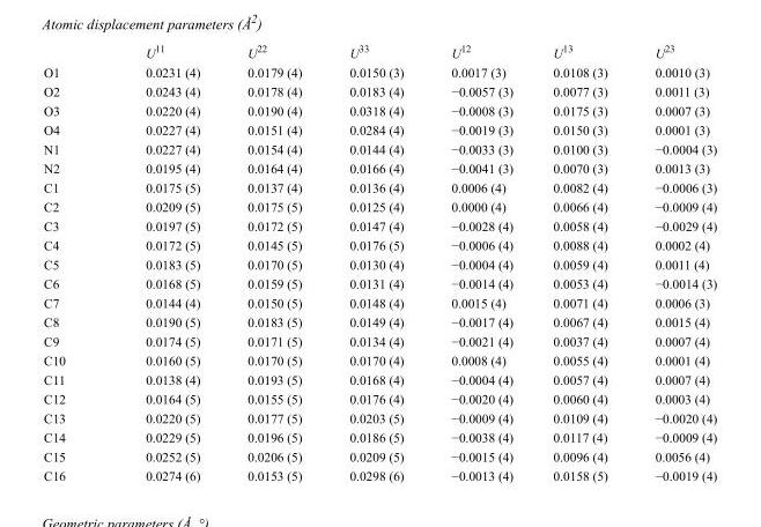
<table><thead><tr><td></td><td>U<sup>11</sup></td><td>U<sup>22</sup></td><td>U<sup>33</sup></td><td>U<sup>12</sup></td><td>U<sup>13</sup></td><td>U<sup>23</sup></td></tr></thead><tbody><tr><td>O1</td><td>0.0231 (4)</td><td>0.0179 (4)</td><td>0.0150 (3)</td><td>0.0017 (3)</td><td>0.0108 (3)</td><td>0.0010 (3)</td></tr><tr><td>O2</td><td>0.0243 (4)</td><td>0.0178 (4)</td><td>0.0183 (4)</td><td>−0.0057 (3)</td><td>0.0077 (3)</td><td>0.0011 (3)</td></tr><tr><td>O3</td><td>0.0220 (4)</td><td>0.0190 (4)</td><td>0.0318 (4)</td><td>−0.0008 (3)</td><td>0.0175 (3)</td><td>0.0007 (3)</td></tr><tr><td>O4</td><td>0.0227 (4)</td><td>0.0151 (4)</td><td>0.0284 (4)</td><td>−0.0019 (3)</td><td>0.0150 (3)</td><td>0.0001 (3)</td></tr><tr><td>N1</td><td>0.0227 (4)</td><td>0.0154 (4)</td><td>0.0144 (4)</td><td>−0.0033 (3)</td><td>0.0100 (3)</td><td>−0.0004 (3)</td></tr><tr><td>N2</td><td>0.0195 (4)</td><td>0.0164 (4)</td><td>0.0166 (4)</td><td>−0.0041 (3)</td><td>0.0070 (3)</td><td>0.0013 (3)</td></tr><tr><td>C1</td><td>0.0175 (5)</td><td>0.0137 (4)</td><td>0.0136 (4)</td><td>0.0006 (4)</td><td>0.0082 (4)</td><td>−0.0006 (3)</td></tr><tr><td>C2</td><td>0.0209 (5)</td><td>0.0175 (5)</td><td>0.0125 (4)</td><td>0.0000 (4)</td><td>0.0066 (4)</td><td>−0.0009 (4)</td></tr><tr><td>C3</td><td>0.0197 (5)</td><td>0.0172 (5)</td><td>0.0147 (4)</td><td>−0.0028 (4)</td><td>0.0058 (4)</td><td>−0.0029 (4)</td></tr><tr><td>C4</td><td>0.0172 (5)</td><td>0.0145 (5)</td><td>0.0176 (5)</td><td>−0.0006 (4)</td><td>0.0088 (4)</td><td>0.0002 (4)</td></tr><tr><td>C5</td><td>0.0183 (5)</td><td>0.0170 (5)</td><td>0.0130 (4)</td><td>−0.0004 (4)</td><td>0.0059 (4)</td><td>0.0011 (4)</td></tr><tr><td>C6</td><td>0.0168 (5)</td><td>0.0159 (5)</td><td>0.0131 (4)</td><td>−0.0014 (4)</td><td>0.0053 (4)</td><td>−0.0014 (3)</td></tr><tr><td>C7</td><td>0.0144 (4)</td><td>0.0150 (5)</td><td>0.0148 (4)</td><td>0.0015 (4)</td><td>0.0071 (4)</td><td>0.0006 (3)</td></tr><tr><td>C8</td><td>0.0190 (5)</td><td>0.0183 (5)</td><td>0.0149 (4)</td><td>−0.0017 (4)</td><td>0.0067 (4)</td><td>0.0015 (4)</td></tr><tr><td>C9</td><td>0.0174 (5)</td><td>0.0171 (5)</td><td>0.0134 (4)</td><td>−0.0021 (4)</td><td>0.0037 (4)</td><td>0.0007 (4)</td></tr><tr><td>C10</td><td>0.0160 (5)</td><td>0.0170 (5)</td><td>0.0170 (4)</td><td>0.0008 (4)</td><td>0.0055 (4)</td><td>0.0001 (4)</td></tr><tr><td>C11</td><td>0.0138 (4)</td><td>0.0193 (5)</td><td>0.0168 (4)</td><td>−0.0004 (4)</td><td>0.0057 (4)</td><td>0.0007 (4)</td></tr><tr><td>C12</td><td>0.0164 (5)</td><td>0.0155 (5)</td><td>0.0176 (4)</td><td>−0.0020 (4)</td><td>0.0060 (4)</td><td>0.0003 (4)</td></tr><tr><td>C13</td><td>0.0220 (5)</td><td>0.0177 (5)</td><td>0.0203 (5)</td><td>−0.0009 (4)</td><td>0.0109 (4)</td><td>−0.0020 (4)</td></tr><tr><td>C14</td><td>0.0229 (5)</td><td>0.0196 (5)</td><td>0.0186 (5)</td><td>−0.0038 (4)</td><td>0.0117 (4)</td><td>−0.0009 (4)</td></tr><tr><td>C15</td><td>0.0252 (5)</td><td>0.0206 (5)</td><td>0.0209 (5)</td><td>−0.0015 (4)</td><td>0.0096 (4)</td><td>0.0056 (4)</td></tr><tr><td>C16</td><td>0.0274 (6)</td><td>0.0153 (5)</td><td>0.0298 (6)</td><td>−0.0013 (4)</td><td>0.0158 (5)</td><td>−0.0019 (4)</td></tr></tbody></table>